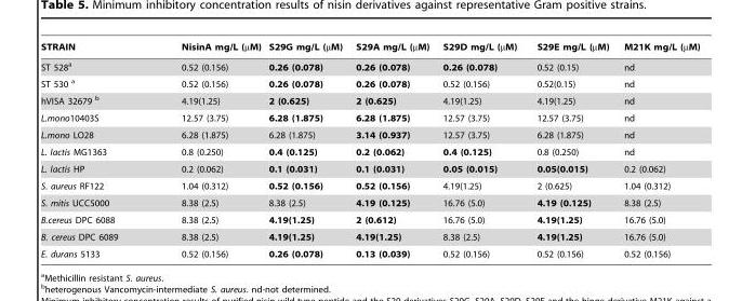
<table><thead><tr><td>STRAIN</td><td>NisinA mg/L (µM)</td><td>S29G mg/L (µM)</td><td>S29A mg/L (µM)</td><td>S29D mg/L (µM)</td><td>S29E mg/L (µM)</td><td>M21K mg/L (µM)</td></tr></thead><tbody><tr><td>ST 528<sup>a</sup></td><td>0.52 (0.156)</td><td>0.26 (0.078)</td><td>0.26 (0.078)</td><td>0.26 (0.078)</td><td>0.52 (0.15)</td><td>nd</td></tr><tr><td>ST 530 a</td><td>0.52 (0.156)</td><td>0.26 (0.078)</td><td>0.26 (0.078)</td><td>0.52 (0.156)</td><td>0.52(0.15)</td><td>nd</td></tr><tr><td>hVISA 32679 b</td><td>4.19(1.25)</td><td>2 (0.625)</td><td>2 (0.625)</td><td>4.19(1.25)</td><td>4.19(1.25)</td><td>nd</td></tr><tr><td>L.mono10403S</td><td>12.57 (3.75)</td><td>6.28 (1.875)</td><td>6.28 (1.875)</td><td>12.57 (3.75)</td><td>12.57 (3.75)</td><td>nd</td></tr><tr><td>L.mono LO28</td><td>6.28 (1.875)</td><td>6.28 (1.875)</td><td>3.14 (0.937)</td><td>12.57 (3.75)</td><td>6.28 (1.875)</td><td>nd</td></tr><tr><td>L. lactis MG1363</td><td>0.8 (0.250)</td><td>0.4 (0.125)</td><td>0.2 (0.062)</td><td>0.4 (0.125)</td><td>0.8 (0.250)</td><td>nd</td></tr><tr><td>L. lactis HP</td><td>0.2 (0.062)</td><td>0.1 (0.031)</td><td>0.1 (0.031)</td><td>0.05 (0.015)</td><td>0.05(0.015)</td><td>0.2 (0.062)</td></tr><tr><td>S. aureus RF122</td><td>1.04 (0.312)</td><td>0.52 (0.156)</td><td>0.52 (0.156)</td><td>4.19(1.25)</td><td>2 (0.625)</td><td>1.04 (0.312)</td></tr><tr><td>S. mitis UCC5000</td><td>8.38 (2.5)</td><td>8.38 (2.5)</td><td>4.19 (0.125)</td><td>16.76 (5.0)</td><td>4.19 (0.125)</td><td>8.38 (2.5)</td></tr><tr><td>B.cereus DPC 6088</td><td>8.38 (2.5)</td><td>4.19(1.25)</td><td>2 (0.612)</td><td>16.76 (5.0)</td><td>4.19(1.25)</td><td>16.76 (5.0)</td></tr><tr><td>B. cereus DPC 6089</td><td>8.38 (2.5)</td><td>4.19(1.25)</td><td>4.19(1.25)</td><td>8.38 (2.5)</td><td>4.19(1.25)</td><td>16.76 (5.0)</td></tr><tr><td>E. durans 5133</td><td>0.52 (0.156)</td><td>0.26 (0.078)</td><td>0.13 (0.039)</td><td>0.52 (0.156)</td><td>0.52 (0.156)</td><td>0.52 (0.156)</td></tr></tbody></table>